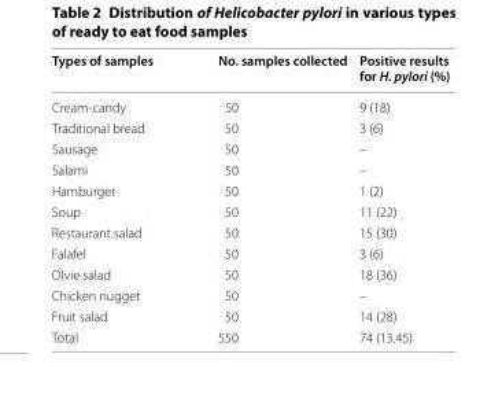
<table><thead><tr><td>Types of samples</td><td>No. samples collected</td><td>Positive results for H. pylori (%)</td></tr></thead><tbody><tr><td>Cream-candy</td><td>50</td><td>9 (18)</td></tr><tr><td>Traditional bread</td><td>50</td><td>3 (6)</td></tr><tr><td>Sausage</td><td>50</td><td>–</td></tr><tr><td>Salami</td><td>50</td><td>–</td></tr><tr><td>Hamburger</td><td>50</td><td>1 (2)</td></tr><tr><td>Soup</td><td>50</td><td>11 (22)</td></tr><tr><td>Restaurant salad</td><td>50</td><td>15 (30)</td></tr><tr><td>Falafel</td><td>50</td><td>3 (6)</td></tr><tr><td>Olvie salad</td><td>50</td><td>18 (36)</td></tr><tr><td>Chicken nugget</td><td>50</td><td>–</td></tr><tr><td>Fruit salad</td><td>50</td><td>14 (28)</td></tr><tr><td>Total</td><td>550</td><td>74 (13.45)</td></tr></tbody></table>